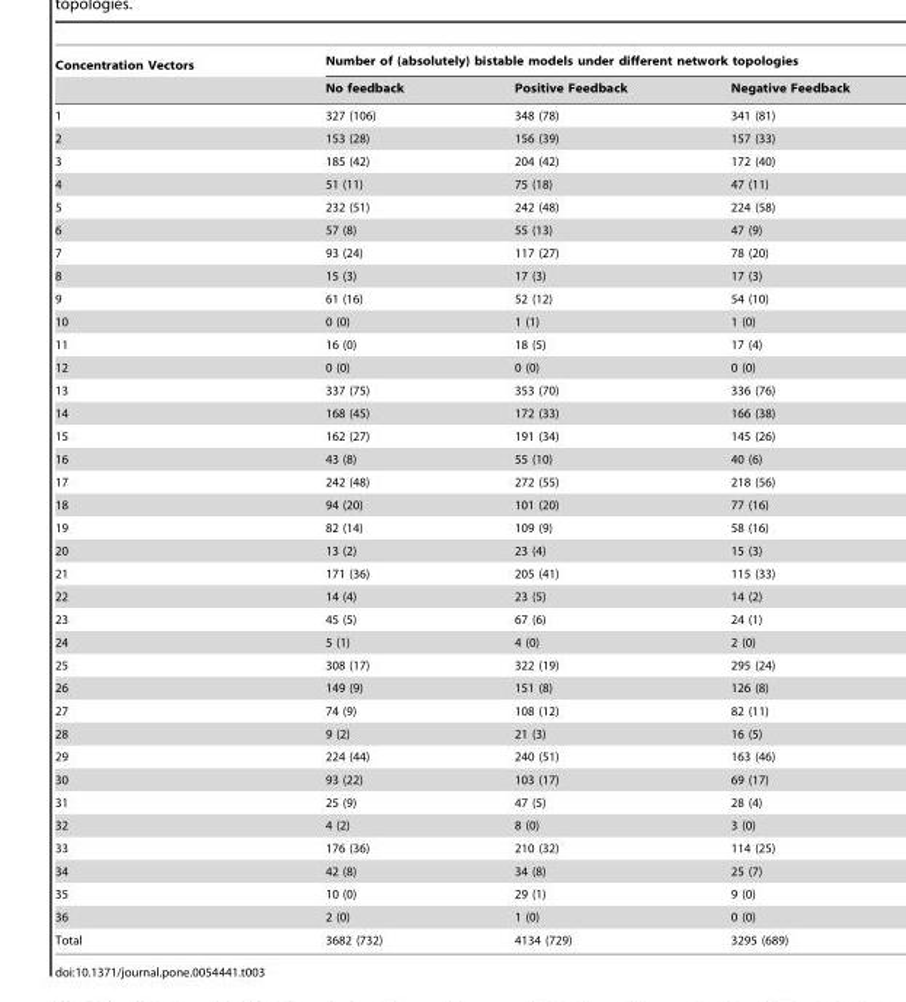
<table><thead><tr><td rowspan="2">Concentration Vectors</td><td colspan="3">Number of (absolutely) bistable models under different network topologies</td></tr><tr><td>No feedback</td><td>Positive Feedback</td><td>Negative Feedback</td></tr></thead><tbody><tr><td>1</td><td>327 (106)</td><td>348 (78)</td><td>341 (81)</td></tr><tr><td>2</td><td>153 (28)</td><td>156 (39)</td><td>157 (33)</td></tr><tr><td>3</td><td>185 (42)</td><td>204 (42)</td><td>172 (40)</td></tr><tr><td>4</td><td>51 (11)</td><td>75 (18)</td><td>47 (11)</td></tr><tr><td>5</td><td>232 (51)</td><td>242 (48)</td><td>224 (58)</td></tr><tr><td>6</td><td>57 (8)</td><td>55 (13)</td><td>47 (9)</td></tr><tr><td>7</td><td>93 (24)</td><td>117 (27)</td><td>78 (20)</td></tr><tr><td>8</td><td>15 (3)</td><td>17 (3)</td><td>17 (3)</td></tr><tr><td>9</td><td>61 (16)</td><td>52 (12)</td><td>54 (10)</td></tr><tr><td>10</td><td>0 (0)</td><td>1 (1)</td><td>1 (0)</td></tr><tr><td>11</td><td>16 (0)</td><td>18 (5)</td><td>17 (4)</td></tr><tr><td>12</td><td>0 (0)</td><td>0 (0)</td><td>0 (0)</td></tr><tr><td>13</td><td>337 (75)</td><td>353 (70)</td><td>336 (76)</td></tr><tr><td>14</td><td>168 (45)</td><td>172 (33)</td><td>166 (38)</td></tr><tr><td>15</td><td>162 (27)</td><td>191 (34)</td><td>145 (26)</td></tr><tr><td>16</td><td>43 (8)</td><td>55 (10)</td><td>40 (6)</td></tr><tr><td>17</td><td>242 (48)</td><td>272 (55)</td><td>218 (56)</td></tr><tr><td>18</td><td>94 (20)</td><td>101 (20)</td><td>77 (16)</td></tr><tr><td>19</td><td>82 (14)</td><td>109 (9)</td><td>58 (16)</td></tr><tr><td>20</td><td>13 (2)</td><td>23 (4)</td><td>15 (3)</td></tr><tr><td>21</td><td>171 (36)</td><td>205 (41)</td><td>115 (33)</td></tr><tr><td>22</td><td>14 (4)</td><td>23 (5)</td><td>14 (2)</td></tr><tr><td>23</td><td>45 (5)</td><td>67 (6)</td><td>24 (1)</td></tr><tr><td>24</td><td>5 (1)</td><td>4 (0)</td><td>2 (0)</td></tr><tr><td>25</td><td>308 (17)</td><td>322 (19)</td><td>295 (24)</td></tr><tr><td>26</td><td>149 (9)</td><td>151 (8)</td><td>126 (8)</td></tr><tr><td>27</td><td>74 (9)</td><td>108 (12)</td><td>82 (11)</td></tr><tr><td>28</td><td>9 (2)</td><td>21 (3)</td><td>16 (5)</td></tr><tr><td>29</td><td>224 (44)</td><td>240 (51)</td><td>163 (46)</td></tr><tr><td>30</td><td>93 (22)</td><td>103 (17)</td><td>69 (17)</td></tr><tr><td>31</td><td>25 (9)</td><td>47 (5)</td><td>28 (4)</td></tr><tr><td>32</td><td>4 (2)</td><td>8 (0)</td><td>3 (0)</td></tr><tr><td>33</td><td>176 (36)</td><td>210 (32)</td><td>114 (25)</td></tr><tr><td>34</td><td>42 (8)</td><td>34 (8)</td><td>25 (7)</td></tr><tr><td>35</td><td>10 (0)</td><td>29 (1)</td><td>9 (0)</td></tr><tr><td>36</td><td>2 (0)</td><td>1 (0)</td><td>0 (0)</td></tr><tr><td>Total</td><td>3682 (732)</td><td>4134 (729)</td><td>3295 (689)</td></tr></tbody></table>